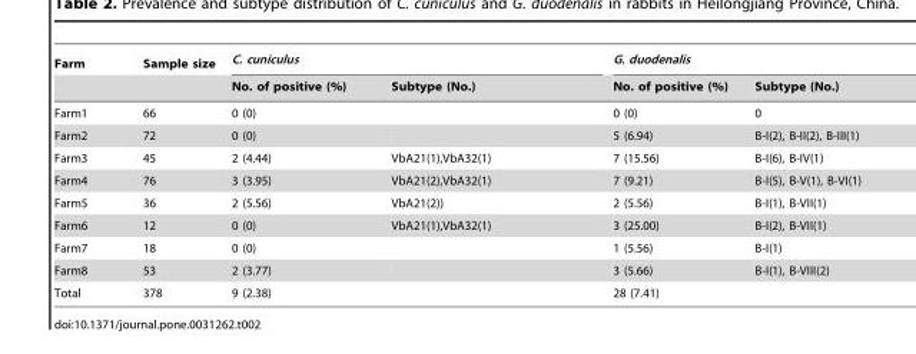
<table><thead><tr><td rowspan="2">Farm</td><td rowspan="2">Sample size</td><td colspan="2">C. cuniculus</td><td colspan="2">G. duodenalis</td></tr><tr><td>No. of positive (%)</td><td>Subtype (No.)</td><td>No. of positive (%)</td><td>Subtype (No.)</td></tr></thead><tbody><tr><td>Farm1</td><td>66</td><td>0 (0)</td><td></td><td>0 (0)</td><td>0</td></tr><tr><td>Farm2</td><td>72</td><td>0 (0)</td><td></td><td>5 (6.94)</td><td>B-I(2), B-II(2), B-III(1)</td></tr><tr><td>Farm3</td><td>45</td><td>2 (4.44)</td><td>VbA21(1),VbA32(1)</td><td>7 (15.56)</td><td>B-I(6), B-IV(1)</td></tr><tr><td>Farm4</td><td>76</td><td>3 (3.95)</td><td>VbA21(2),VbA32(1)</td><td>7 (9.21)</td><td>B-I(5), B-V(1), B-VI(1)</td></tr><tr><td>Farm5</td><td>36</td><td>2 (5.56)</td><td>VbA21(2))</td><td>2 (5.56)</td><td>B-I(1), B-VII(1)</td></tr><tr><td>Farm6</td><td>12</td><td>0 (0)</td><td>VbA21(1),VbA32(1)</td><td>3 (25.00)</td><td>B-I(2), B-VII(1)</td></tr><tr><td>Farm7</td><td>18</td><td>0 (0)</td><td></td><td>1 (5.56)</td><td>B-I(1)</td></tr><tr><td>Farm8</td><td>53</td><td>2 (3.77)</td><td></td><td>3 (5.66)</td><td>B-I(1), B-VIII(2)</td></tr><tr><td>Total</td><td>378</td><td>9 (2.38)</td><td></td><td>28 (7.41)</td><td></td></tr></tbody></table>